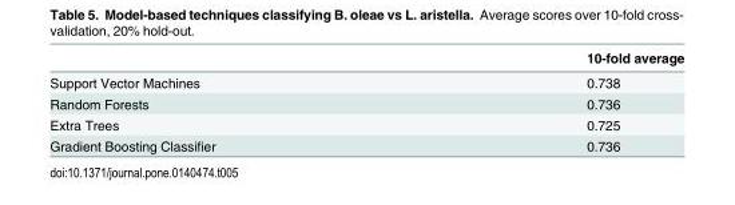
<table><thead><tr><td></td><td>10-fold average</td></tr></thead><tbody><tr><td>Support Vector Machines</td><td>0.738</td></tr><tr><td>Random Forests</td><td>0.736</td></tr><tr><td>Extra Trees</td><td>0.725</td></tr><tr><td>Gradient Boosting Classifier</td><td>0.736</td></tr></tbody></table>